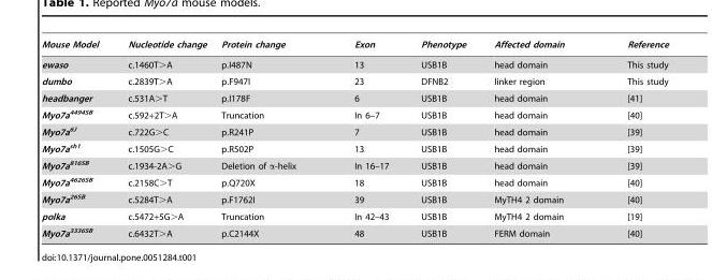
<table><thead><tr><td>Mouse Model</td><td>Nucleotide change</td><td>Protein change</td><td>Exon</td><td>Phenotype</td><td>Affected domain</td><td>Reference</td></tr></thead><tbody><tr><td>ewaso</td><td>c.1460T&gt;A</td><td>p.I487N</td><td>13</td><td>USB1B</td><td>head domain</td><td>This study</td></tr><tr><td>dumbo</td><td>c.2839T&gt;A</td><td>p.F947I</td><td>23</td><td>DFNB2</td><td>linker region</td><td>This study</td></tr><tr><td>headbanger</td><td>c.531A&gt;T</td><td>p.I178F</td><td>6</td><td>USB1B</td><td>head domain</td><td>[41]</td></tr><tr><td>Myo7a<sup>4494SB</sup></td><td>c.592+2T&gt;A</td><td>Truncation</td><td>In 6–7</td><td>USB1B</td><td>head domain</td><td>[40]</td></tr><tr><td>Myo7a<sup>6J</sup></td><td>c.722G&gt;C</td><td>p.R241P</td><td>7</td><td>USB1B</td><td>head domain</td><td>[39]</td></tr><tr><td>Myo7a<sup>sh1</sup></td><td>c.1505G&gt;C</td><td>p.R502P</td><td>13</td><td>USB1B</td><td>head domain</td><td>[39]</td></tr><tr><td>Myo7a<sup>816SB</sup></td><td>c.1934-2A&gt;G</td><td>Deletion of α-helix</td><td>In 16–17</td><td>USB1B</td><td>head domain</td><td>[39]</td></tr><tr><td>Myo7a<sup>4626SB</sup></td><td>c.2158C&gt;T</td><td>p.Q720X</td><td>18</td><td>USB1B</td><td>head domain</td><td>[40]</td></tr><tr><td>Myo7a<sup>26SB</sup></td><td>c.5284T&gt;A</td><td>p.F1762I</td><td>39</td><td>USB1B</td><td>MyTH4 2 domain</td><td>[40]</td></tr><tr><td>polka</td><td>c.5472+5G&gt;A</td><td>Truncation</td><td>In 42–43</td><td>USB1B</td><td>MyTH4 2 domain</td><td>[19]</td></tr><tr><td>Myo7a<sup>3336SB</sup></td><td>c.6432T&gt;A</td><td>p.C2144X</td><td>48</td><td>USB1B</td><td>FERM domain</td><td>[40]</td></tr></tbody></table>